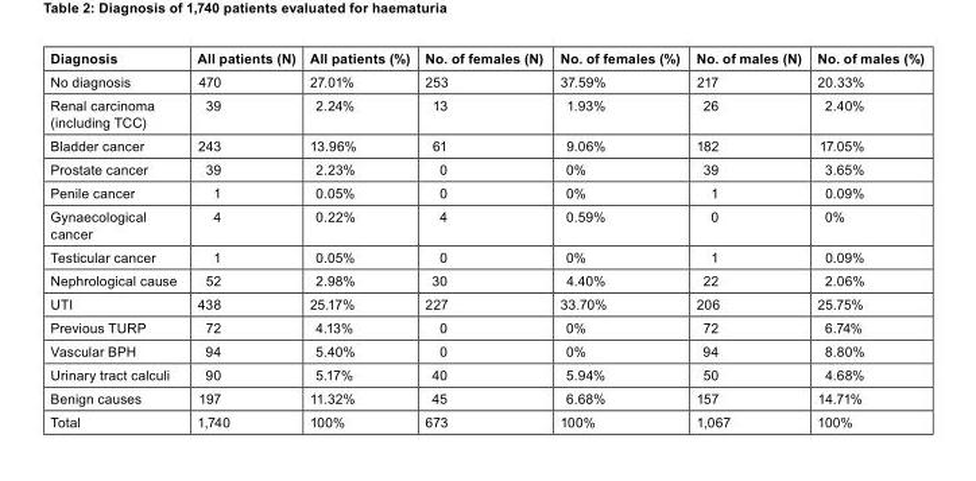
<table><thead><tr><td>Diagnosis</td><td>All patients (N)</td><td>All patients (%)</td><td>No. of females (N)</td><td>No. of females (%)</td><td>No. of males (N)</td><td>No. of males (%)</td></tr></thead><tbody><tr><td>No diagnosis</td><td>470</td><td>27.01%</td><td>253</td><td>37.59%</td><td>217</td><td>20.33%</td></tr><tr><td>Renal carcinoma (including TCC)</td><td>39</td><td>2.24%</td><td>13</td><td>1.93%</td><td>26</td><td>2.40%</td></tr><tr><td>Bladder cancer</td><td>243</td><td>13.96%</td><td>61</td><td>9.06%</td><td>182</td><td>17.05%</td></tr><tr><td>Prostate cancer</td><td>39</td><td>2.23%</td><td>0</td><td>0%</td><td>39</td><td>3.65%</td></tr><tr><td>Penile cancer</td><td>1</td><td>0.05%</td><td>0</td><td>0%</td><td>1</td><td>0.09%</td></tr><tr><td>Gynaecological cancer</td><td>4</td><td>0.22%</td><td>4</td><td>0.59%</td><td>0</td><td>0%</td></tr><tr><td>Testicular cancer</td><td>1</td><td>0.05%</td><td>0</td><td>0%</td><td>1</td><td>0.09%</td></tr><tr><td>Nephrological cause</td><td>52</td><td>2.98%</td><td>30</td><td>4.40%</td><td>22</td><td>2.06%</td></tr><tr><td>UTI</td><td>438</td><td>25.17%</td><td>227</td><td>33.70%</td><td>206</td><td>25.75%</td></tr><tr><td>Previous TURP</td><td>72</td><td>4.13%</td><td>0</td><td>0%</td><td>72</td><td>6.74%</td></tr><tr><td>Vascular BPH</td><td>94</td><td>5.40%</td><td>0</td><td>0%</td><td>94</td><td>8.80%</td></tr><tr><td>Urinary tract calculi</td><td>90</td><td>5.17%</td><td>40</td><td>5.94%</td><td>50</td><td>4.68%</td></tr><tr><td>Benign causes</td><td>197</td><td>11.32%</td><td>45</td><td>6.68%</td><td>157</td><td>14.71%</td></tr><tr><td>Total</td><td>1,740</td><td>100%</td><td>673</td><td>100%</td><td>1,067</td><td>100%</td></tr></tbody></table>